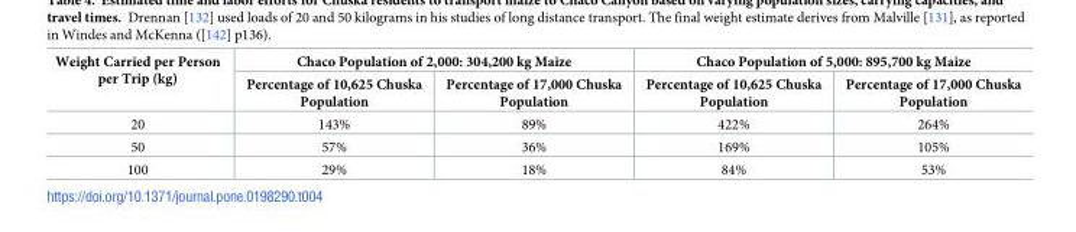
<table><thead><tr><td rowspan="2">Weight Carried per Person per Trip (kg)</td><td colspan="2">Chaco Population of 2,000: 304,200 kg Maize</td><td colspan="2">Chaco Population of 5,000: 895,700 kg Maize</td></tr><tr><td>Percentage of 10,625 Chuska Population</td><td>Percentage of 17,000 Chuska Population</td><td>Percentage of 10,625 Chuska Population</td><td>Percentage of 17,000 Chuska Population</td></tr></thead><tbody><tr><td>20</td><td>143%</td><td>89%</td><td>422%</td><td>264%</td></tr><tr><td>50</td><td>57%</td><td>36%</td><td>169%</td><td>105%</td></tr><tr><td>100</td><td>29%</td><td>18%</td><td>84%</td><td>53%</td></tr></tbody></table>